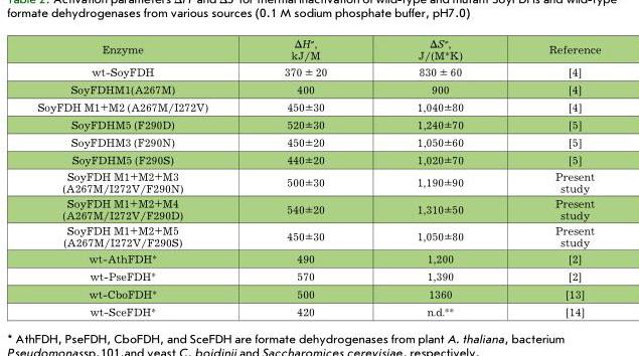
<table><thead><tr><td>Enzyme</td><td>ΔH<sup>≠</sup>, kJ/M</td><td>ΔS<sup>≠</sup>, J/(M*K)</td><td>Reference</td></tr></thead><tbody><tr><td>wt-SoyFDH</td><td>370 ± 20</td><td>830 ± 60</td><td>[4]</td></tr><tr><td>SoyFDHM1(A267M)</td><td>400</td><td>900</td><td>[4]</td></tr><tr><td>SoyFDH M1+M2 (A267M/I272V)</td><td>450±30</td><td>1,040±80</td><td>[4]</td></tr><tr><td>SoyFDHM5 (F290D)</td><td>520±30</td><td>1,240±70</td><td>[5]</td></tr><tr><td>SoyFDHM3 (F290N)</td><td>450±20</td><td>1,050±60</td><td>[5]</td></tr><tr><td>SoyFDHM5 (F290S)</td><td>440±20</td><td>1,020±70</td><td>[5]</td></tr><tr><td>SoyFDH M1+M2+M3 (A267M/I272V/F290N)</td><td>500±30</td><td>1,190±90</td><td>Present study</td></tr><tr><td>SoyFDH M1+M2+M4 (A267M/I272V/F290D)</td><td>540±20</td><td>1,310±50</td><td>Present study</td></tr><tr><td>SoyFDH M1+M2+M5 (A267M/I272V/F290S)</td><td>450±30</td><td>1,050±80</td><td>Present study</td></tr><tr><td>wt-AthFDH*</td><td>490</td><td>1,200</td><td>[2]</td></tr><tr><td>wt-PseFDH*</td><td>570</td><td>1,390</td><td>[2]</td></tr><tr><td>wt-CboFDH*</td><td>500</td><td>1360</td><td>[13]</td></tr><tr><td>wt-SceFDH*</td><td>420</td><td>n.d.**</td><td>[14]</td></tr></tbody></table>